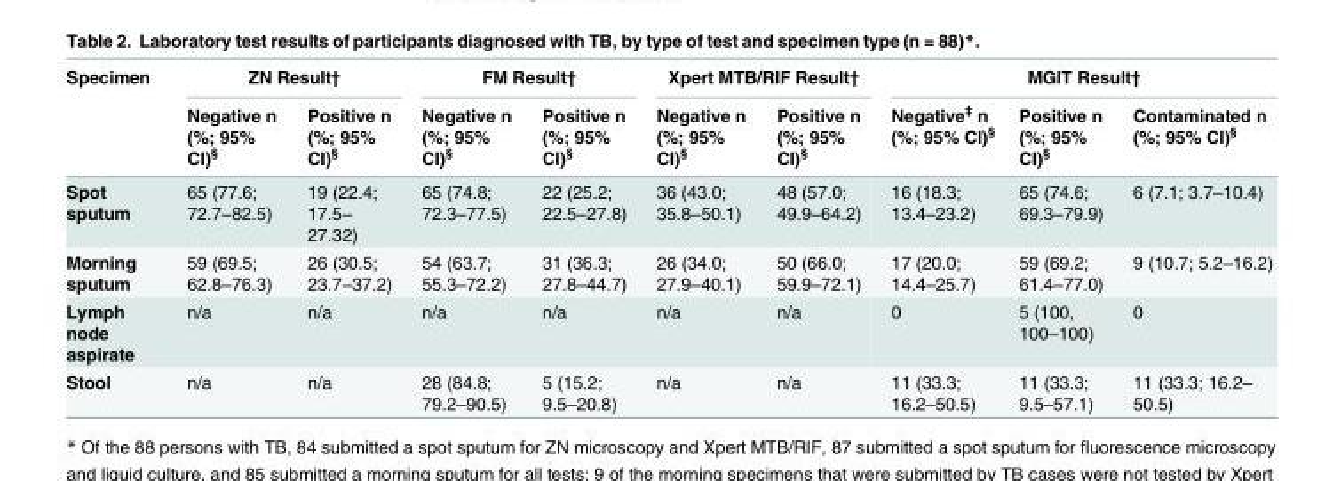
<table><thead><tr><td rowspan="2">Specimen</td><td colspan="2">ZN Result†</td><td colspan="2">FM Result†</td><td colspan="2">Xpert MTB/RIF Result†</td><td colspan="3">MGIT Result†</td></tr><tr><td>Negative n (%; 95% CI)<sup>§</sup></td><td>Positive n (%; 95% CI)<sup>§</sup></td><td>Negative n (%; 95% CI)<sup>§</sup></td><td>Positive n (%; 95% CI)<sup>§</sup></td><td>Negative n (%; 95% CI)<sup>§</sup></td><td>Positive n (%; 95% CI)<sup>§</sup></td><td>Negative<sup>‡</sup> n (%; 95% CI)<sup>§</sup></td><td>Positive n (%; 95% CI)<sup>§</sup></td><td>Contaminated n (%; 95% CI)<sup>§</sup></td></tr></thead><tbody><tr><td>Spot sputum</td><td>65 (77.6; 72.7–82.5)</td><td>19 (22.4; 17.5– 27.32)</td><td>65 (74.8; 72.3–77.5)</td><td>22 (25.2; 22.5–27.8)</td><td>36 (43.0; 35.8–50.1)</td><td>48 (57.0; 49.9–64.2)</td><td>16 (18.3; 13.4–23.2)</td><td>65 (74.6; 69.3–79.9)</td><td>6 (7.1; 3.7–10.4)</td></tr><tr><td>Morning sputum</td><td>59 (69.5; 62.8–76.3)</td><td>26 (30.5; 23.7–37.2)</td><td>54 (63.7; 55.3–72.2)</td><td>31 (36.3; 27.8–44.7)</td><td>26 (34.0; 27.9–40.1)</td><td>50 (66.0; 59.9–72.1)</td><td>17 (20.0; 14.4–25.7)</td><td>59 (69.2; 61.4–77.0)</td><td>9 (10.7; 5.2–16.2)</td></tr><tr><td>Lymph node aspirate</td><td>n/a</td><td>n/a</td><td>n/a</td><td>n/a</td><td>n/a</td><td>n/a</td><td>0</td><td>5 (100, 100–100)</td><td>0</td></tr><tr><td>Stool</td><td>n/a</td><td>n/a</td><td>28 (84.8; 79.2–90.5)</td><td>5 (15.2; 9.5–20.8)</td><td>n/a</td><td>n/a</td><td>11 (33.3; 16.2–50.5)</td><td>11 (33.3; 9.5–57.1)</td><td>11 (33.3; 16.2– 50.5)</td></tr></tbody></table>